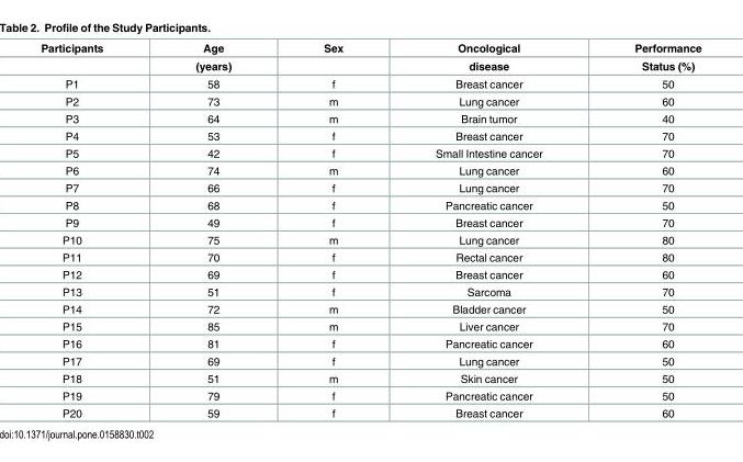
<table><thead><tr><td rowspan="2">Participants</td><td rowspan="2">Age (years)</td><td rowspan="2">Sex</td><td rowspan="2">Oncological disease</td><td rowspan="2">Performance Status (%)</td></tr><tr></tr></thead><tbody><tr><td>P1</td><td>58</td><td>f</td><td>Breast cancer</td><td>50</td></tr><tr><td>P2</td><td>73</td><td>m</td><td>Lung cancer</td><td>60</td></tr><tr><td>P3</td><td>64</td><td>m</td><td>Brain tumor</td><td>40</td></tr><tr><td>P4</td><td>53</td><td>f</td><td>Breast cancer</td><td>70</td></tr><tr><td>P5</td><td>42</td><td>f</td><td>Small Intestine cancer</td><td>70</td></tr><tr><td>P6</td><td>74</td><td>m</td><td>Lung cancer</td><td>60</td></tr><tr><td>P7</td><td>66</td><td>f</td><td>Lung cancer</td><td>70</td></tr><tr><td>P8</td><td>68</td><td>f</td><td>Pancreatic cancer</td><td>50</td></tr><tr><td>P9</td><td>49</td><td>f</td><td>Breast cancer</td><td>70</td></tr><tr><td>P10</td><td>75</td><td>m</td><td>Lung cancer</td><td>80</td></tr><tr><td>P11</td><td>70</td><td>f</td><td>Rectal cancer</td><td>80</td></tr><tr><td>P12</td><td>69</td><td>f</td><td>Breast cancer</td><td>60</td></tr><tr><td>P13</td><td>51</td><td>f</td><td>Sarcoma</td><td>70</td></tr><tr><td>P14</td><td>72</td><td>m</td><td>Bladder cancer</td><td>50</td></tr><tr><td>P15</td><td>85</td><td>m</td><td>Liver cancer</td><td>70</td></tr><tr><td>P16</td><td>81</td><td>f</td><td>Pancreatic cancer</td><td>60</td></tr><tr><td>P17</td><td>69</td><td>f</td><td>Lung cancer</td><td>50</td></tr><tr><td>P18</td><td>51</td><td>m</td><td>Skin cancer</td><td>50</td></tr><tr><td>P19</td><td>79</td><td>f</td><td>Pancreatic cancer</td><td>50</td></tr><tr><td>P20</td><td>59</td><td>f</td><td>Breast cancer</td><td>60</td></tr></tbody></table>